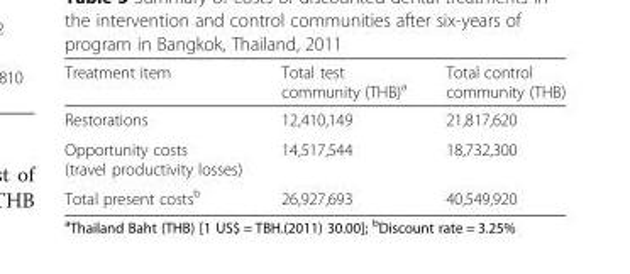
<table><thead><tr><td>Treatment item</td><td>Total test community (THB)<sup>a</sup></td><td>Total control community (THB)</td></tr></thead><tbody><tr><td>Restorations</td><td>12,410,149</td><td>21,817,620</td></tr><tr><td>Opportunity costs (travel productivity losses)</td><td>14,517,544</td><td>18,732,300</td></tr><tr><td>Total present costs<sup>b</sup></td><td>26,927,693</td><td>40,549,920</td></tr></tbody></table>